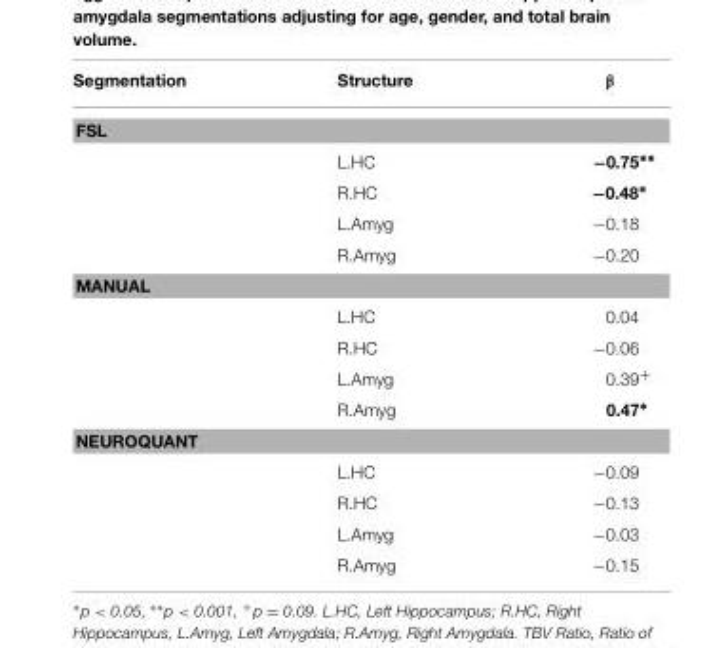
<table><thead><tr><td>Segmentation</td><td>Structure</td><td>β</td></tr></thead><tbody><tr><td colspan="3">FSL</td></tr><tr><td></td><td>L.HC</td><td>−0.75∗∗</td></tr><tr><td></td><td>R.HC</td><td>−0.48∗</td></tr><tr><td></td><td>L.Amyg</td><td>−0.18</td></tr><tr><td></td><td>R.Amyg</td><td>−0.20</td></tr><tr><td colspan="3">MANUAL</td></tr><tr><td></td><td>L.HC</td><td>0.04</td></tr><tr><td></td><td>R.HC</td><td>−0.06</td></tr><tr><td></td><td>L.Amyg</td><td>0.39<sup>+</sup></td></tr><tr><td></td><td>R.Amyg</td><td>0.47∗</td></tr><tr><td colspan="3">NEUROQUANT</td></tr><tr><td></td><td>L.HC</td><td>−0.09</td></tr><tr><td></td><td>R.HC</td><td>−0.13</td></tr><tr><td></td><td>L.Amyg</td><td>−0.03</td></tr><tr><td></td><td>R.Amyg</td><td>−0.15</td></tr></tbody></table>